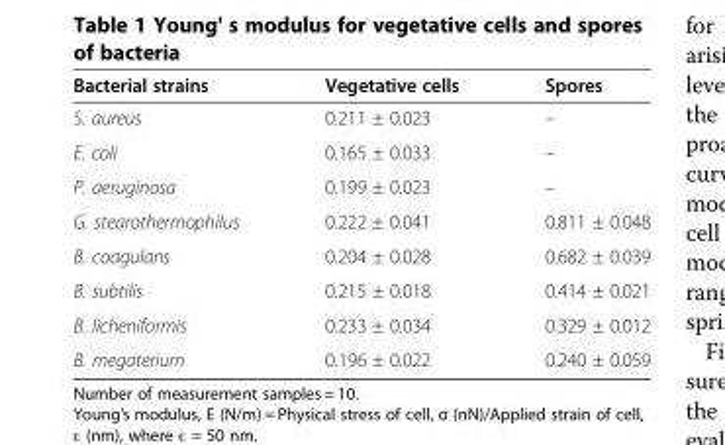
<table><thead><tr><td>Bacterial strains</td><td>Vegetative cells</td><td>Spores</td></tr></thead><tbody><tr><td>S. aureus</td><td>0.211 ± 0.023</td><td>–</td></tr><tr><td>E. coli</td><td>0.165 ± 0.033</td><td>–</td></tr><tr><td>P. aeruginosa</td><td>0.199 ± 0.023</td><td>–</td></tr><tr><td>G. stearothermophilus</td><td>0.222 ± 0.041</td><td>0.811 ± 0.048</td></tr><tr><td>B. coagulans</td><td>0.204 ± 0.028</td><td>0.682 ± 0.039</td></tr><tr><td>B. subtilis</td><td>0.215 ± 0.018</td><td>0.414 ± 0.021</td></tr><tr><td>B. licheniformis</td><td>0.233 ± 0.034</td><td>0.329 ± 0.012</td></tr><tr><td>B. megaterium</td><td>0.196 ± 0.022</td><td>0.240 ± 0.059</td></tr></tbody></table>